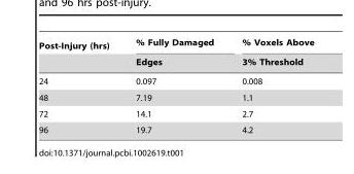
<table><thead><tr><td rowspan="2">Post-Injury (hrs)</td><td rowspan="2">% Fully Damaged Edges</td><td rowspan="2">% Voxels Above 3% Threshold</td></tr><tr></tr></thead><tbody><tr><td>24</td><td>0.097</td><td>0.008</td></tr><tr><td>48</td><td>7.19</td><td>1.1</td></tr><tr><td>72</td><td>14.1</td><td>2.7</td></tr><tr><td>96</td><td>19.7</td><td>4.2</td></tr></tbody></table>